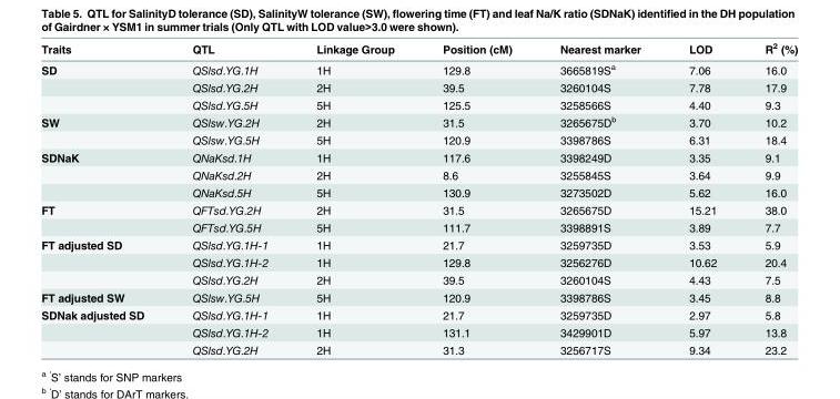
<table><thead><tr><td>Traits</td><td>QTL</td><td>Linkage Group</td><td>Position (cM)</td><td>Nearest marker</td><td>LOD</td><td>R<sup>2</sup> (%)</td></tr></thead><tbody><tr><td rowspan="3">SD</td><td>QSlsd.YG.1H</td><td>1H</td><td>129.8</td><td>3665819S<sup>a</sup></td><td>7.06</td><td>16.0</td></tr><tr><td>QSlsd.YG.2H</td><td>2H</td><td>39.5</td><td>3260104S</td><td>7.78</td><td>17.9</td></tr><tr><td>QSlsd.YG.5H</td><td>5H</td><td>125.5</td><td>3258566S</td><td>4.40</td><td>9.3</td></tr><tr><td rowspan="2">SW</td><td>QSlsw.YG.2H</td><td>2H</td><td>31.5</td><td>3265675D<sup>b</sup></td><td>3.70</td><td>10.2</td></tr><tr><td>QSlsw.YG.5H</td><td>5H</td><td>120.9</td><td>3398786S</td><td>6.31</td><td>18.4</td></tr><tr><td rowspan="3">SDNaK</td><td>QNaKsd.1H</td><td>1H</td><td>117.6</td><td>3398249D</td><td>3.35</td><td>9.1</td></tr><tr><td>QNaKsd.2H</td><td>2H</td><td>8.6</td><td>3255845S</td><td>3.64</td><td>9.9</td></tr><tr><td>QNaKsd.5H</td><td>5H</td><td>130.9</td><td>3273502D</td><td>5.62</td><td>16.0</td></tr><tr><td rowspan="2">FT</td><td>QFTsd.YG.2H</td><td>2H</td><td>31.5</td><td>3265675D</td><td>15.21</td><td>38.0</td></tr><tr><td>QFTsd.YG.5H</td><td>5H</td><td>111.7</td><td>3398891S</td><td>3.89</td><td>7.7</td></tr><tr><td rowspan="3">FT adjusted SD</td><td>QSlsd.YG.1H-1</td><td>1H</td><td>21.7</td><td>3259735D</td><td>3.53</td><td>5.9</td></tr><tr><td>QSlsd.YG.1H-2</td><td>1H</td><td>129.8</td><td>3256276D</td><td>10.62</td><td>20.4</td></tr><tr><td>QSlsd.YG.2H</td><td>2H</td><td>39.5</td><td>3260104S</td><td>4.43</td><td>7.5</td></tr><tr><td>FT adjusted SW</td><td>QSlsw.YG.5H</td><td>5H</td><td>120.9</td><td>3398786S</td><td>3.45</td><td>8.8</td></tr><tr><td rowspan="3">SDNak adjusted SD</td><td>QSlsd.YG.1H-1</td><td>1H</td><td>21.7</td><td>3259735D</td><td>2.97</td><td>5.8</td></tr><tr><td>QSlsd.YG.1H-2</td><td>1H</td><td>131.1</td><td>3429901D</td><td>5.97</td><td>13.8</td></tr><tr><td>QSlsd.YG.2H</td><td>2H</td><td>31.3</td><td>3256717S</td><td>9.34</td><td>23.2</td></tr></tbody></table>